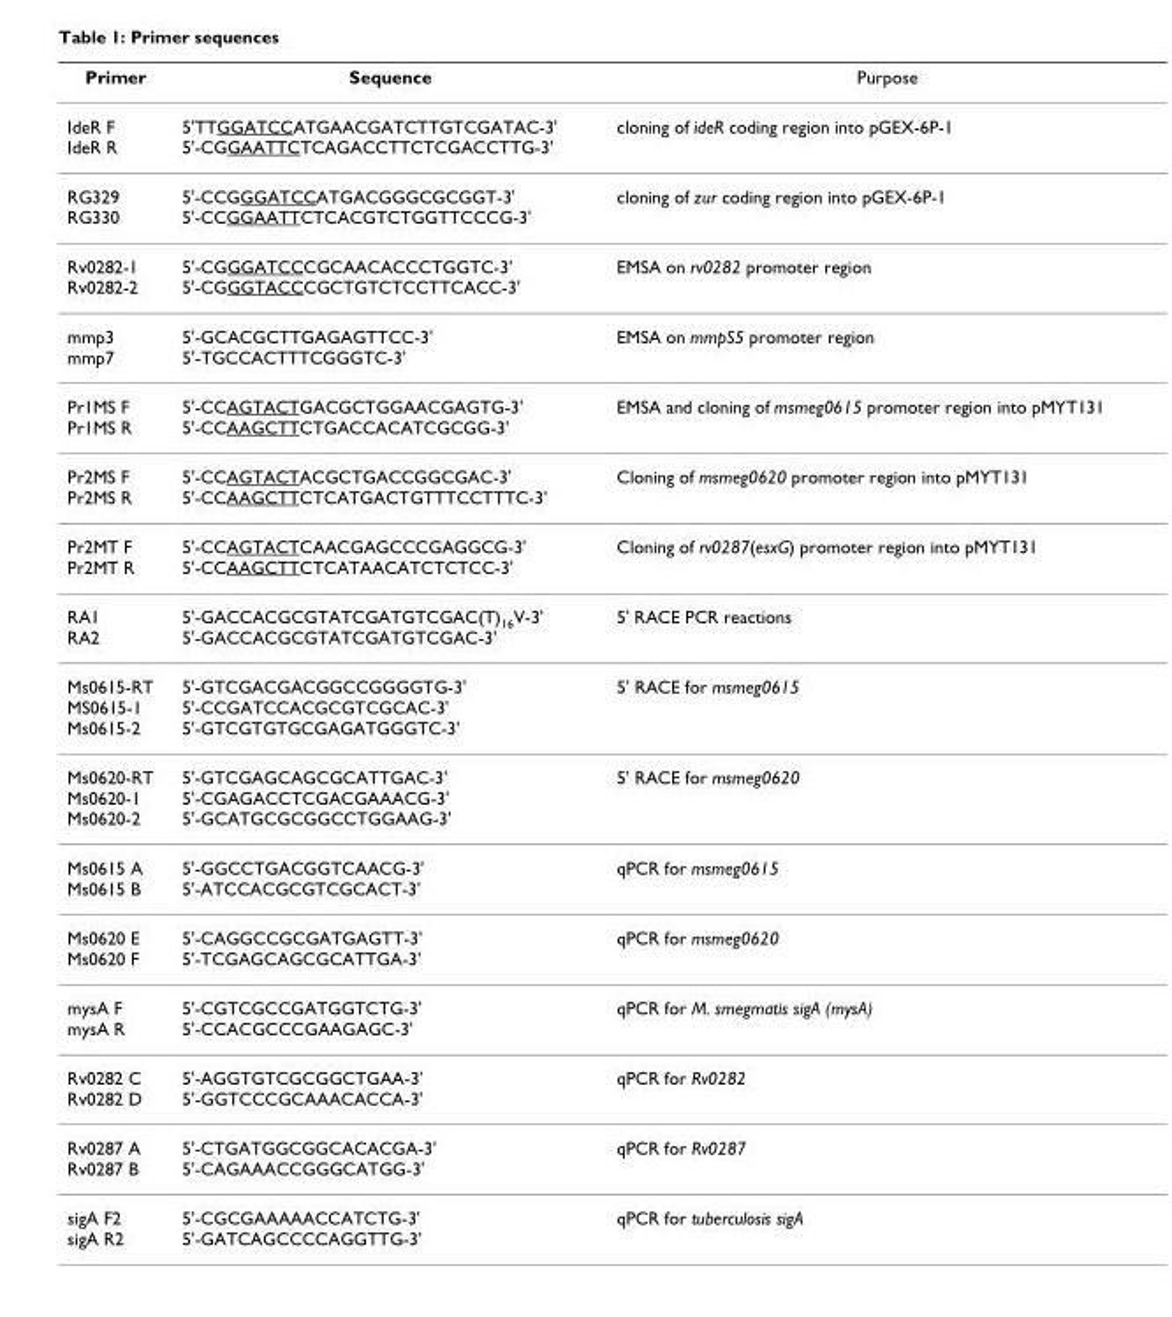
<table><thead><tr><td>Primer</td><td>Sequence</td><td>Purpose</td></tr></thead><tbody><tr><td>IdeR F IdeR R</td><td>5&#x27;TTGGATCCATGAACGATCTTGTCGATAC-3&#x27; 5&#x27;-CGGAATTCTCAGACCTTCTCGACCTTG-3&#x27;</td><td>cloning of ideR coding region into pGEX-6P-1</td></tr><tr><td>RG329 RG330</td><td>5&#x27;-CCGGGATCCATGACGGGCGCGGT-3&#x27; 5&#x27;-CCGGAATTCTCACGTCTGGTTCCCG-3&#x27;</td><td>cloning of zur coding region into pGEX-6P-1</td></tr><tr><td>Rv0282-1 Rv0282-2</td><td>5&#x27;-CGGGATCCCGCAACACCCTGGTC-3&#x27; 5&#x27;-CGGGTACCCGCTGTCTCCTTCACC-3&#x27;</td><td>EMSA on rv0282 promoter region</td></tr><tr><td>mmp3 mmp7</td><td>5&#x27;-GCACGCTTGAGAGTTCC-3&#x27; 5&#x27;-TGCCACTTTCGGGTC-3&#x27;</td><td>EMSA on mmpS5 promoter region</td></tr><tr><td>Pr1MS F Pr1MS R</td><td>5&#x27;-CCAGTACTGACGCTGGAACGAGTG-3&#x27; 5&#x27;-CCAAGCTTCTGACCACATCGCGG-3&#x27;</td><td>EMSA and cloning of msmeg0615 promoter region into pMYT131</td></tr><tr><td>Pr2MS F Pr2MS R</td><td>5&#x27;-CCAGTACTACGCTGACCGGCGAC-3&#x27; 5&#x27;-CCAAGCTTCTCATGACTGTTTCCTTTC-3&#x27;</td><td>Cloning of msmeg0620 promoter region into pMYT131</td></tr><tr><td>Pr2MT F Pr2MT R</td><td>5&#x27;-CCAGTACTCAACGAGCCCGAGGCG-3&#x27; 5&#x27;-CCAAGCTTCTCATAACATCTCTCC-3&#x27;</td><td>Cloning of rv0287(esxG) promoter region into pMYT131</td></tr><tr><td>RA1 RA2</td><td>5&#x27;-GACCACGCGTATCGATGTCGAC(T)<sub>16</sub>V-3&#x27; 5&#x27;-GACCACGCGTATCGATGTCGAC-3&#x27;</td><td>5&#x27; RACE PCR reactions</td></tr><tr><td>Ms0615-RT MS0615-1 Ms0615-2</td><td>5&#x27;-GTCGACGACGGCCGGGGTG-3&#x27; 5&#x27;-CCGATCCACGCGTCGCAC-3&#x27; 5&#x27;-GTCGTGTGCGAGATGGGTC-3&#x27;</td><td>5&#x27; RACE for msmeg0615</td></tr><tr><td>Ms0620-RT Ms0620-1 Ms0620-2</td><td>5&#x27;-GTCGAGCAGCGCATTGAC-3&#x27; 5&#x27;-CGAGACCTCGACGAAACG-3&#x27; 5&#x27;-GCATGCGCGGCCTGGAAG-3&#x27;</td><td>5&#x27; RACE for msmeg0620</td></tr><tr><td>Ms0615 A Ms0615 B</td><td>5&#x27;-GGCCTGACGGTCAACG-3&#x27; 5&#x27;-ATCCACGCGTCGCACT-3&#x27;</td><td>qPCR for msmeg0615</td></tr><tr><td>Ms0620 E Ms0620 F</td><td>5&#x27;-CAGGCCGCGATGAGTT-3&#x27; 5&#x27;-TCGAGCAGCGCATTGA-3&#x27;</td><td>qPCR for msmeg0620</td></tr><tr><td>mysA F mysA R</td><td>5&#x27;-CGTCGCCGATGGTCTG-3&#x27; 5&#x27;-CCACGCCCGAAGAGC-3&#x27;</td><td>qPCR for M. smegmatis sigA (mysA)</td></tr><tr><td>Rv0282 C Rv0282 D</td><td>5&#x27;-AGGTGTCGCGGCTGAA-3&#x27; 5&#x27;-GGTCCCGCAAACACCA-3&#x27;</td><td>qPCR for Rv0282</td></tr><tr><td>Rv0287 A Rv0287 B</td><td>5&#x27;-CTGATGGCGGCACACGA-3&#x27; 5&#x27;-CAGAAACCGGGCATGG-3&#x27;</td><td>qPCR for Rv0287</td></tr><tr><td>sigA F2 sigA R2</td><td>5&#x27;-CGCGAAAAACCATCTG-3&#x27; 5&#x27;-GATCAGCCCCAGGTTG-3&#x27;</td><td>qPCR for tuberculosis sigA</td></tr></tbody></table>